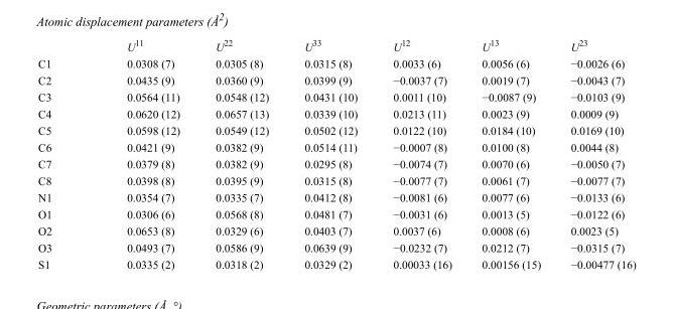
<table><thead><tr><td></td><td>U<sup>11</sup></td><td>U<sup>22</sup></td><td>U<sup>33</sup></td><td>U<sup>12</sup></td><td>U<sup>13</sup></td><td>U<sup>23</sup></td></tr></thead><tbody><tr><td>C1</td><td>0.0308 (7)</td><td>0.0305 (8)</td><td>0.0315 (8)</td><td>0.0033 (6)</td><td>0.0056 (6)</td><td>−0.0026 (6)</td></tr><tr><td>C2</td><td>0.0435 (9)</td><td>0.0360 (9)</td><td>0.0399 (9)</td><td>−0.0037 (7)</td><td>0.0019 (7)</td><td>−0.0043 (7)</td></tr><tr><td>C3</td><td>0.0564 (11)</td><td>0.0548 (12)</td><td>0.0431 (10)</td><td>0.0011 (10)</td><td>−0.0087 (9)</td><td>−0.0103 (9)</td></tr><tr><td>C4</td><td>0.0620 (12)</td><td>0.0657 (13)</td><td>0.0339 (10)</td><td>0.0213 (11)</td><td>0.0023 (9)</td><td>0.0009 (9)</td></tr><tr><td>C5</td><td>0.0598 (12)</td><td>0.0549 (12)</td><td>0.0502 (12)</td><td>0.0122 (10)</td><td>0.0184 (10)</td><td>0.0169 (10)</td></tr><tr><td>C6</td><td>0.0421 (9)</td><td>0.0382 (9)</td><td>0.0514 (11)</td><td>−0.0007 (8)</td><td>0.0100 (8)</td><td>0.0044 (8)</td></tr><tr><td>C7</td><td>0.0379 (8)</td><td>0.0382 (9)</td><td>0.0295 (8)</td><td>−0.0074 (7)</td><td>0.0070 (6)</td><td>−0.0050 (7)</td></tr><tr><td>C8</td><td>0.0398 (8)</td><td>0.0395 (9)</td><td>0.0315 (8)</td><td>−0.0077 (7)</td><td>0.0061 (7)</td><td>−0.0077 (7)</td></tr><tr><td>N1</td><td>0.0354 (7)</td><td>0.0335 (7)</td><td>0.0412 (8)</td><td>−0.0081 (6)</td><td>0.0077 (6)</td><td>−0.0133 (6)</td></tr><tr><td>O1</td><td>0.0306 (6)</td><td>0.0568 (8)</td><td>0.0481 (7)</td><td>−0.0031 (6)</td><td>0.0013 (5)</td><td>−0.0122 (6)</td></tr><tr><td>O2</td><td>0.0653 (8)</td><td>0.0329 (6)</td><td>0.0403 (7)</td><td>0.0037 (6)</td><td>0.0008 (6)</td><td>0.0023 (5)</td></tr><tr><td>O3</td><td>0.0493 (7)</td><td>0.0586 (9)</td><td>0.0639 (9)</td><td>−0.0232 (7)</td><td>0.0212 (7)</td><td>−0.0315 (7)</td></tr><tr><td>S1</td><td>0.0335 (2)</td><td>0.0318 (2)</td><td>0.0329 (2)</td><td>0.00033 (16)</td><td>0.00156 (15)</td><td>−0.00477 (16)</td></tr></tbody></table>